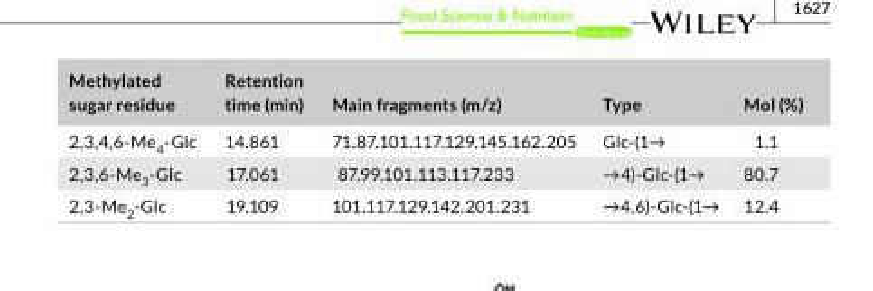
<table><thead><tr><td>Methylated sugar residue</td><td>Retention time (min)</td><td>Main fragments (m/z)</td><td>Type</td><td>Mol (%)</td></tr></thead><tbody><tr><td>2,3,4,6- Me<sub>4</sub>- Glc</td><td>14.861</td><td>71.87.101.117.129.145.162.205</td><td>Glc- (1→</td><td>1.1</td></tr><tr><td>2,3,6- Me<sub>3</sub>- Glc</td><td>17.061</td><td>87.99.101.113.117.233</td><td>→4)- Glc- (1→</td><td>80.7</td></tr><tr><td>2,3- Me<sub>2</sub>- Glc</td><td>19.109</td><td>101.117.129.142.201.231</td><td>→4,6)- Glc- (1→</td><td>12.4</td></tr></tbody></table>